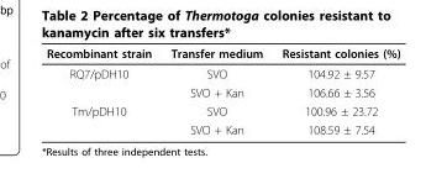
<table><thead><tr><td>Recombinant strain</td><td>Transfer medium</td><td>Resistant colonies (%)</td></tr></thead><tbody><tr><td rowspan="2">RQ7/pDH10</td><td>SVO</td><td>104.92 ± 9.57</td></tr><tr><td>SVO + Kan</td><td>106.66 ± 3.56</td></tr><tr><td rowspan="2">Tm/pDH10</td><td>SVO</td><td>100.96 ± 23.72</td></tr><tr><td>SVO + Kan</td><td>108.59 ± 7.54</td></tr></tbody></table>